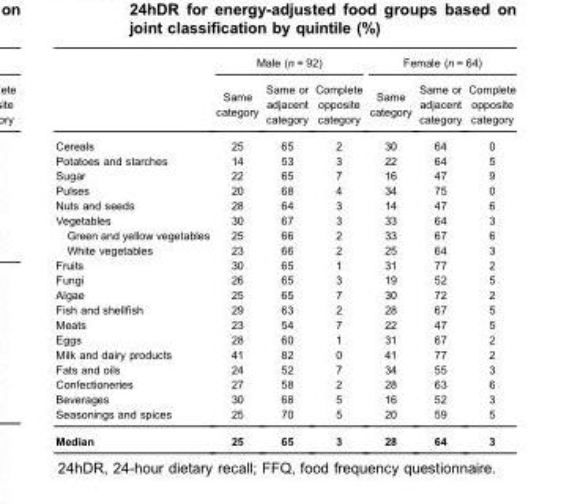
<table><thead><tr><td rowspan="2"></td><td colspan="3">Male (n = 92)</td><td colspan="3">Female (n = 64)</td></tr><tr><td>Same category</td><td>Same or adjacent category</td><td>Complete opposite category</td><td>Same category</td><td>Same or adjacent category</td><td>Complete opposite category</td></tr></thead><tbody><tr><td>Cereals</td><td>25</td><td>65</td><td>2</td><td>30</td><td>64</td><td>0</td></tr><tr><td>Potatoes and starches</td><td>14</td><td>53</td><td>3</td><td>22</td><td>64</td><td>5</td></tr><tr><td>Sugar</td><td>22</td><td>65</td><td>7</td><td>16</td><td>47</td><td>9</td></tr><tr><td>Pulses</td><td>20</td><td>68</td><td>4</td><td>34</td><td>75</td><td>0</td></tr><tr><td>Nuts and seeds</td><td>28</td><td>64</td><td>3</td><td>14</td><td>47</td><td>6</td></tr><tr><td>Vegetables</td><td>30</td><td>67</td><td>3</td><td>33</td><td>64</td><td>3</td></tr><tr><td>Green and yellow vegetables</td><td>25</td><td>66</td><td>2</td><td>33</td><td>67</td><td>6</td></tr><tr><td>White vegetables</td><td>23</td><td>66</td><td>2</td><td>25</td><td>64</td><td>3</td></tr><tr><td>Fruits</td><td>30</td><td>65</td><td>1</td><td>31</td><td>77</td><td>2</td></tr><tr><td>Fungi</td><td>26</td><td>65</td><td>3</td><td>19</td><td>52</td><td>5</td></tr><tr><td>Algae</td><td>25</td><td>65</td><td>7</td><td>30</td><td>72</td><td>2</td></tr><tr><td>Fish and shellfish</td><td>29</td><td>63</td><td>2</td><td>28</td><td>67</td><td>5</td></tr><tr><td>Meats</td><td>23</td><td>54</td><td>7</td><td>22</td><td>47</td><td>5</td></tr><tr><td>Eggs</td><td>28</td><td>60</td><td>1</td><td>31</td><td>67</td><td>2</td></tr><tr><td>Milk and dairy products</td><td>41</td><td>82</td><td>0</td><td>41</td><td>77</td><td>2</td></tr><tr><td>Fats and oils</td><td>24</td><td>52</td><td>7</td><td>34</td><td>55</td><td>3</td></tr><tr><td>Confectioneries</td><td>27</td><td>58</td><td>2</td><td>28</td><td>63</td><td>6</td></tr><tr><td>Beverages</td><td>30</td><td>68</td><td>5</td><td>16</td><td>52</td><td>3</td></tr><tr><td>Seasonings and spices</td><td>25</td><td>70</td><td>5</td><td>20</td><td>59</td><td>5</td></tr><tr><td>Median</td><td>25</td><td>65</td><td>3</td><td>28</td><td>64</td><td>3</td></tr></tbody></table>